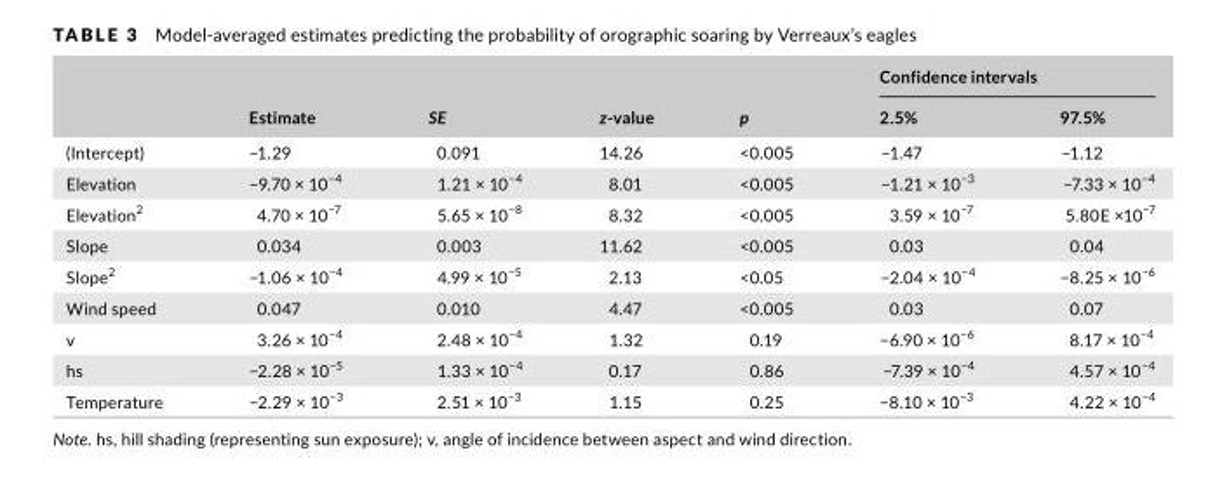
<table><thead><tr><td rowspan="2"></td><td rowspan="2">Estimate</td><td rowspan="2">SE</td><td rowspan="2">z- value</td><td rowspan="2">p</td><td colspan="2">Confidence intervals</td></tr><tr><td>2.5%</td><td>97.5%</td></tr></thead><tbody><tr><td>(Intercept)</td><td>−1.29</td><td>0.091</td><td>14.26</td><td>&lt;0.005</td><td>−1.47</td><td>−1.12</td></tr><tr><td>Elevation</td><td>−9.70 × 10<sup>−4</sup></td><td>1.21 × 10<sup>−4</sup></td><td>8.01</td><td>&lt;0.005</td><td>−1.21 × 10<sup>−3</sup></td><td>−7.33 × 10<sup>−4</sup></td></tr><tr><td>Elevation<sup>2</sup></td><td>4.70 × 10<sup>−7</sup></td><td>5.65 × 10<sup>−8</sup></td><td>8.32</td><td>&lt;0.005</td><td>3.59 × 10<sup>−7</sup></td><td>5.80E ×10<sup>−7</sup></td></tr><tr><td>Slope</td><td>0.034</td><td>0.003</td><td>11.62</td><td>&lt;0.005</td><td>0.03</td><td>0.04</td></tr><tr><td>Slope<sup>2</sup></td><td>−1.06 × 10<sup>−4</sup></td><td>4.99 × 10<sup>−5</sup></td><td>2.13</td><td>&lt;0.05</td><td>−2.04 × 10<sup>−4</sup></td><td>−8.25 × 10<sup>−6</sup></td></tr><tr><td>Wind speed</td><td>0.047</td><td>0.010</td><td>4.47</td><td>&lt;0.005</td><td>0.03</td><td>0.07</td></tr><tr><td>v</td><td>3.26 × 10<sup>−4</sup></td><td>2.48 × 10<sup>−4</sup></td><td>1.32</td><td>0.19</td><td>−6.90 × 10<sup>−6</sup></td><td>8.17 × 10<sup>−4</sup></td></tr><tr><td>hs</td><td>−2.28 × 10<sup>−5</sup></td><td>1.33 × 10<sup>−4</sup></td><td>0.17</td><td>0.86</td><td>−7.39 × 10<sup>−4</sup></td><td>4.57 × 10<sup>−4</sup></td></tr><tr><td>Temperature</td><td>−2.29 × 10<sup>−3</sup></td><td>2.51 × 10<sup>−3</sup></td><td>1.15</td><td>0.25</td><td>−8.10 × 10<sup>−3</sup></td><td>4.22 × 10<sup>−4</sup></td></tr></tbody></table>